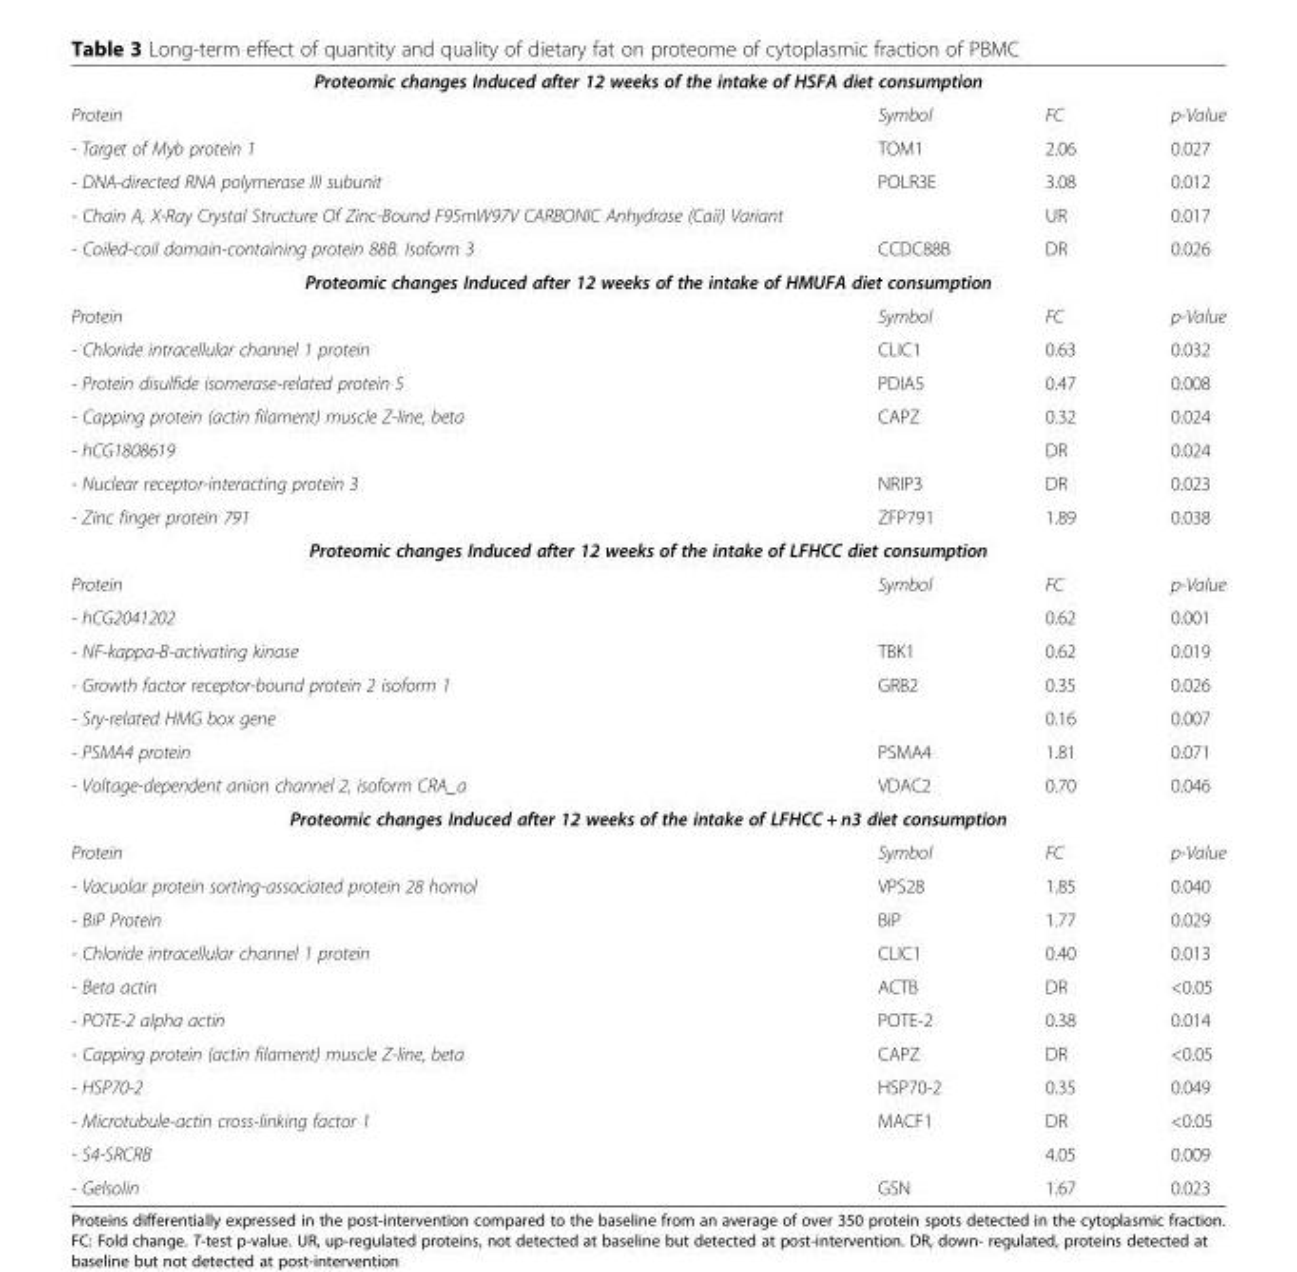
<table><tbody><tr><td colspan="4">Proteomic changes Induced after 12 weeks of the intake of HSFA diet consumption</td></tr><tr><td>Protein</td><td>Symbol</td><td>FC</td><td>p-Value</td></tr><tr><td>- Target of Myb protein 1</td><td>TOM1</td><td>2.06</td><td>0.027</td></tr><tr><td>- DNA-directed RNA polymerase III subunit</td><td>POLR3E</td><td>3.08</td><td>0.012</td></tr><tr><td>- Chain A, X-Ray Crystal Structure Of Zinc-Bound F95mW97V CARBONIC Anhydrase (Caii) Variant</td><td></td><td>UR</td><td>0.017</td></tr><tr><td>- Coiled-coil domain-containing protein 88B. Isoform 3</td><td>CCDC88B</td><td>DR</td><td>0.026</td></tr><tr><td colspan="4">Proteomic changes Induced after 12 weeks of the intake of HMUFA diet consumption</td></tr><tr><td>Protein</td><td>Symbol</td><td>FC</td><td>p-Value</td></tr><tr><td>- Chloride intracellular channel 1 protein</td><td>CLIC1</td><td>0.63</td><td>0.032</td></tr><tr><td>- Protein disulfide isomerase-related protein 5</td><td>PDIA5</td><td>0.47</td><td>0.008</td></tr><tr><td>- Capping protein (actin filament) muscle Z-line, beta</td><td>CAPZ</td><td>0.32</td><td>0.024</td></tr><tr><td>- hCG1808619</td><td></td><td>DR</td><td>0.024</td></tr><tr><td>- Nuclear receptor-interacting protein 3</td><td>NRIP3</td><td>DR</td><td>0.023</td></tr><tr><td>- Zinc finger protein 791</td><td>ZFP791</td><td>1.89</td><td>0.038</td></tr><tr><td colspan="4">Proteomic changes Induced after 12 weeks of the intake of LFHCC diet consumption</td></tr><tr><td>Protein</td><td>Symbol</td><td>FC</td><td>p-Value</td></tr><tr><td>- hCG2041202</td><td></td><td>0.62</td><td>0.001</td></tr><tr><td>- NF-kappa-B-activating kinase</td><td>TBK1</td><td>0.62</td><td>0.019</td></tr><tr><td>- Growth factor receptor-bound protein 2 isoform 1</td><td>GRB2</td><td>0.35</td><td>0.026</td></tr><tr><td>- Sry-related HMG box gene</td><td></td><td>0.16</td><td>0.007</td></tr><tr><td>- PSMA4 protein</td><td>PSMA4</td><td>1.81</td><td>0.071</td></tr><tr><td>- Voltage-dependent anion channel 2, isoform CRA_a</td><td>VDAC2</td><td>0.70</td><td>0.046</td></tr><tr><td colspan="4">Proteomic changes Induced after 12 weeks of the intake of LFHCC + n3 diet consumption</td></tr><tr><td>Protein</td><td>Symbol</td><td>FC</td><td>p-Value</td></tr><tr><td>- Vacuolar protein sorting-associated protein 28 homol</td><td>VPS28</td><td>1.85</td><td>0.040</td></tr><tr><td>- BiP Protein</td><td>BiP</td><td>1.77</td><td>0.029</td></tr><tr><td>- Chloride intracellular channel 1 protein</td><td>CLIC1</td><td>0.40</td><td>0.013</td></tr><tr><td>- Beta actin</td><td>ACTB</td><td>DR</td><td>&lt;0.05</td></tr><tr><td>- POTE-2 alpha actin</td><td>POTE-2</td><td>0.38</td><td>0.014</td></tr><tr><td>- Capping protein (actin filament) muscle Z-line, beta</td><td>CAPZ</td><td>DR</td><td>&lt;0.05</td></tr><tr><td>- HSP70-2</td><td>HSP70-2</td><td>0.35</td><td>0.049</td></tr><tr><td>- Microtubule-actin cross-linking factor 1</td><td>MACF1</td><td>DR</td><td>&lt;0.05</td></tr><tr><td>- S4-SRCRB</td><td></td><td>4.05</td><td>0.009</td></tr><tr><td>- Gelsolin</td><td>GSN</td><td>1.67</td><td>0.023</td></tr></tbody></table>